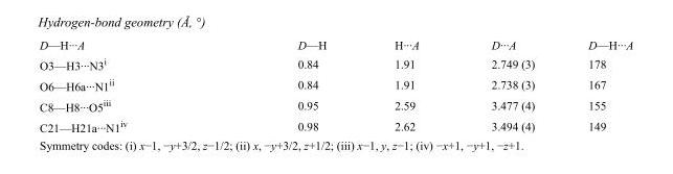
<table><tbody><tr><td>D—H···A</td><td>D—H</td><td>H···A</td><td>D···A</td><td>D—H···A</td></tr><tr><td>O3—H3···N3<sup>i</sup></td><td>0.84</td><td>1.91</td><td>2.749 (3)</td><td>178</td></tr><tr><td>O6—H6a···N1<sup>ii</sup></td><td>0.84</td><td>1.91</td><td>2.738 (3)</td><td>167</td></tr><tr><td>C8—H8···O5<sup>iii</sup></td><td>0.95</td><td>2.59</td><td>3.477 (4)</td><td>155</td></tr><tr><td>C21—H21a···N1<sup>iv</sup></td><td>0.98</td><td>2.62</td><td>3.494 (4)</td><td>149</td></tr></tbody></table>